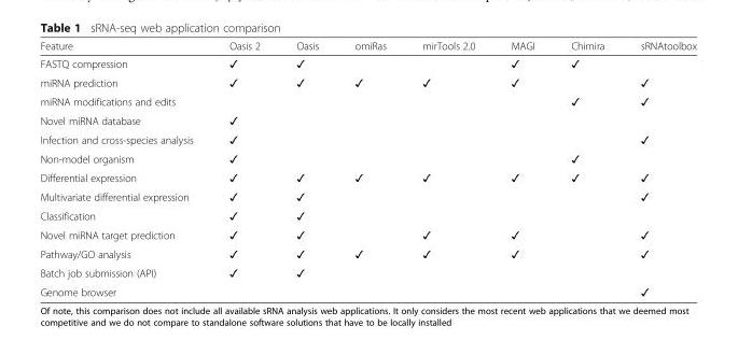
<table><thead><tr><td>Feature</td><td>Oasis 2</td><td>Oasis</td><td>omiRas</td><td>mirTools 2.0</td><td>MAGI</td><td>Chimira</td><td>sRNAtoolbox</td></tr></thead><tbody><tr><td>FASTQ compression</td><td>✓</td><td>✓</td><td></td><td></td><td>✓</td><td>✓</td><td></td></tr><tr><td>miRNA prediction</td><td>✓</td><td>✓</td><td>✓</td><td>✓</td><td>✓</td><td></td><td>✓</td></tr><tr><td>miRNA modifications and edits</td><td></td><td></td><td></td><td></td><td></td><td>✓</td><td>✓</td></tr><tr><td>Novel miRNA database</td><td>✓</td><td></td><td></td><td></td><td></td><td></td><td></td></tr><tr><td>Infection and cross-species analysis</td><td>✓</td><td></td><td></td><td></td><td></td><td></td><td>✓</td></tr><tr><td>Non-model organism</td><td>✓</td><td></td><td></td><td></td><td></td><td>✓</td><td></td></tr><tr><td>Differential expression</td><td>✓</td><td>✓</td><td>✓</td><td>✓</td><td>✓</td><td>✓</td><td>✓</td></tr><tr><td>Multivariate differential expression</td><td>✓</td><td>✓</td><td></td><td></td><td></td><td></td><td>✓</td></tr><tr><td>Classification</td><td>✓</td><td>✓</td><td></td><td></td><td></td><td></td><td></td></tr><tr><td>Novel miRNA target prediction</td><td>✓</td><td>✓</td><td></td><td>✓</td><td>✓</td><td></td><td>✓</td></tr><tr><td>Pathway/GO analysis</td><td>✓</td><td>✓</td><td>✓</td><td>✓</td><td>✓</td><td></td><td>✓</td></tr><tr><td>Batch job submission (API)</td><td>✓</td><td>✓</td><td></td><td></td><td></td><td></td><td></td></tr><tr><td>Genome browser</td><td></td><td></td><td></td><td></td><td></td><td></td><td>✓</td></tr></tbody></table>